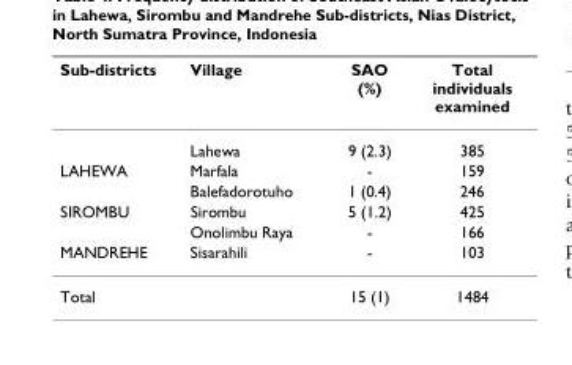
<table><thead><tr><td>Sub-districts</td><td>Village</td><td>SAO (%)</td><td>Total individuals examined</td></tr></thead><tbody><tr><td></td><td>Lahewa</td><td>9 (2.3)</td><td>385</td></tr><tr><td rowspan="2">LAHEWA</td><td>Marfala</td><td>-</td><td>159</td></tr><tr><td>Balefadorotuho</td><td>1 (0.4)</td><td>246</td></tr><tr><td rowspan="2">SIROMBU</td><td>Sirombu</td><td>5 (1.2)</td><td>425</td></tr><tr><td>Onolimbu Raya</td><td>-</td><td>166</td></tr><tr><td>MANDREHE</td><td>Sisarahili</td><td>-</td><td>103</td></tr><tr><td>Total</td><td></td><td>15 (1)</td><td>1484</td></tr></tbody></table>